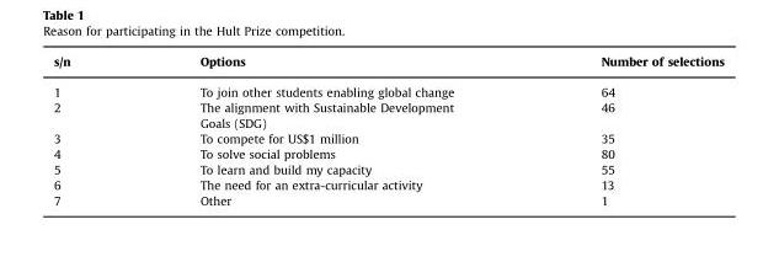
<table><thead><tr><td>s/n</td><td>Options</td><td>Number of selections</td></tr></thead><tbody><tr><td>1</td><td>To join other students enabling global change</td><td>64</td></tr><tr><td>2</td><td>The alignment with Sustainable Development Goals (SDG)</td><td>46</td></tr><tr><td>3</td><td>To compete for US$1 million</td><td>35</td></tr><tr><td>4</td><td>To solve social problems</td><td>80</td></tr><tr><td>5</td><td>To learn and build my capacity</td><td>55</td></tr><tr><td>6</td><td>The need for an extra-curricular activity</td><td>13</td></tr><tr><td>7</td><td>Other</td><td>1</td></tr></tbody></table>